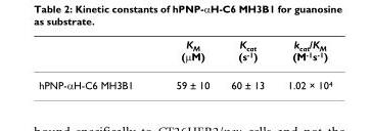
<table><thead><tr><td></td><td>K<sub>M</sub> (μM)</td><td>K<sub>cat</sub> (s<sup>-1</sup>)</td><td>k<sub>cat</sub>/K<sub>M</sub> (M<sup>-1</sup>s<sup>-1</sup>)</td></tr></thead><tbody><tr><td>hPNP-αH-C6 MH3B1</td><td>59 ± 10</td><td>60 ± 13</td><td>1.02 × 10<sup>4</sup></td></tr></tbody></table>